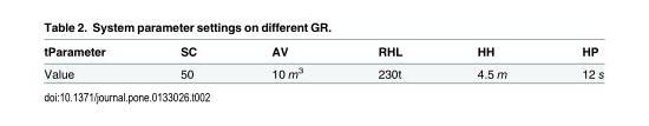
<table><thead><tr><td>tParameter</td><td>SC</td><td>AV</td><td>RHL</td><td>HH</td><td>HP</td></tr></thead><tbody><tr><td>Value</td><td>50</td><td>10 m<sup>3</sup></td><td>230t</td><td>4.5 m</td><td>12 s</td></tr></tbody></table>